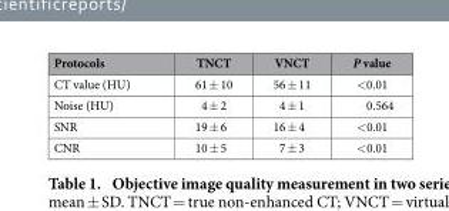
<table><thead><tr><td>Protocols</td><td>TNCT</td><td>VNCT</td><td>P value</td></tr></thead><tbody><tr><td>CT value (HU)</td><td>61 ± 10</td><td>56 ± 11</td><td>&lt; 0.01</td></tr><tr><td>Noise (HU)</td><td>4 ± 2</td><td>4 ± 1</td><td>0.564</td></tr><tr><td>SNR</td><td>19 ± 6</td><td>16 ± 4</td><td>&lt; 0.01</td></tr><tr><td>CNR</td><td>10 ± 5</td><td>7 ± 3</td><td>&lt; 0.01</td></tr></tbody></table>